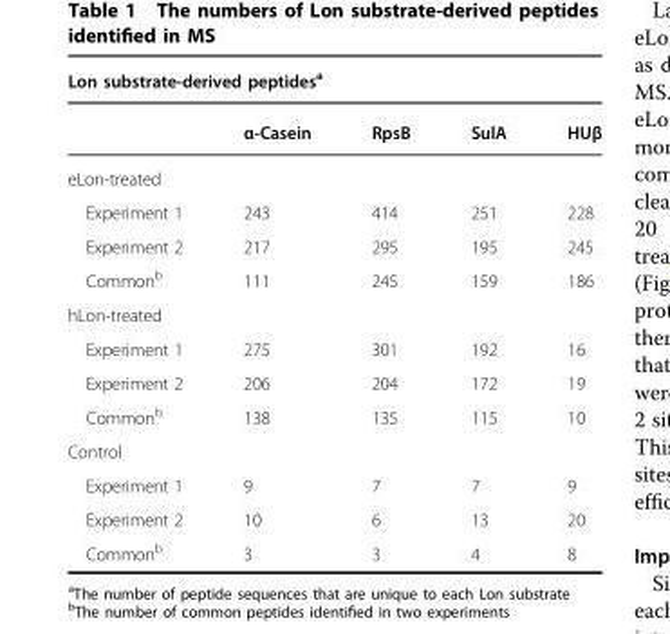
<table><thead><tr><td colspan="5">Lon substrate-derived peptides<sup>a</sup></td></tr><tr><td></td><td>α-Casein</td><td>RpsB</td><td>SulA</td><td>HUβ</td></tr></thead><tbody><tr><td colspan="5">eLon-treated</td></tr><tr><td>Experiment 1</td><td>243</td><td>414</td><td>251</td><td>228</td></tr><tr><td>Experiment 2</td><td>217</td><td>295</td><td>195</td><td>245</td></tr><tr><td>Common<sup>b</sup></td><td>111</td><td>245</td><td>159</td><td>186</td></tr><tr><td colspan="5">hLon-treated</td></tr><tr><td>Experiment 1</td><td>275</td><td>301</td><td>192</td><td>16</td></tr><tr><td>Experiment 2</td><td>206</td><td>204</td><td>172</td><td>19</td></tr><tr><td>Common<sup>b</sup></td><td>138</td><td>135</td><td>115</td><td>10</td></tr><tr><td colspan="5">Control</td></tr><tr><td>Experiment 1</td><td>9</td><td>7</td><td>7</td><td>9</td></tr><tr><td>Experiment 2</td><td>10</td><td>6</td><td>13</td><td>20</td></tr><tr><td>Common<sup>b</sup></td><td>3</td><td>3</td><td>4</td><td>8</td></tr></tbody></table>